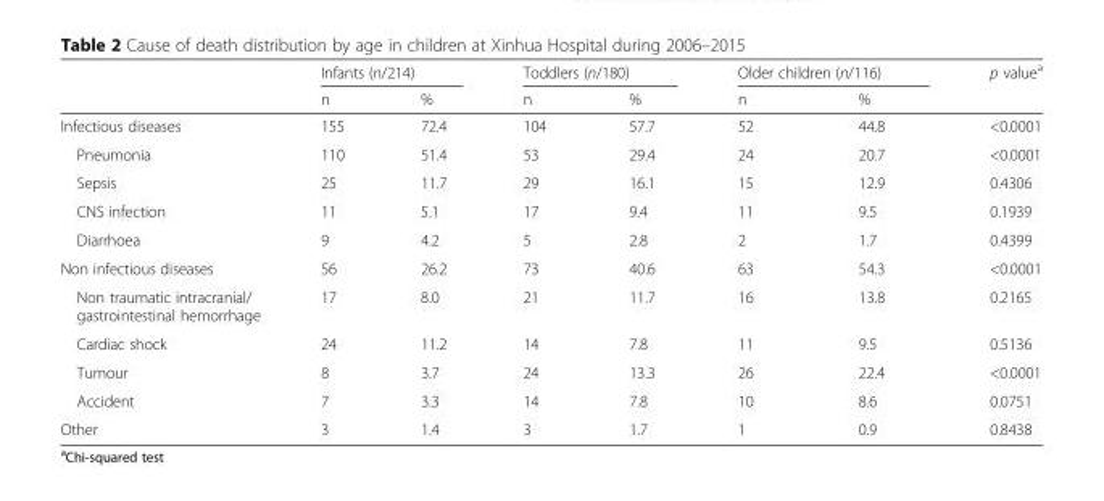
<table><thead><tr><td rowspan="2"></td><td colspan="2">Infants (n/214)</td><td colspan="2">Toddlers (n/180)</td><td colspan="2">Older children (n/116)</td><td rowspan="2">p value<sup>a</sup></td></tr><tr><td>n</td><td>%</td><td>n</td><td>%</td><td>n</td><td>%</td></tr></thead><tbody><tr><td>Infectious diseases</td><td>155</td><td>72.4</td><td>104</td><td>57.7</td><td>52</td><td>44.8</td><td>&lt;0.0001</td></tr><tr><td>Pneumonia</td><td>110</td><td>51.4</td><td>53</td><td>29.4</td><td>24</td><td>20.7</td><td>&lt;0.0001</td></tr><tr><td>Sepsis</td><td>25</td><td>11.7</td><td>29</td><td>16.1</td><td>15</td><td>12.9</td><td>0.4306</td></tr><tr><td>CNS infection</td><td>11</td><td>5.1</td><td>17</td><td>9.4</td><td>11</td><td>9.5</td><td>0.1939</td></tr><tr><td>Diarrhoea</td><td>9</td><td>4.2</td><td>5</td><td>2.8</td><td>2</td><td>1.7</td><td>0.4399</td></tr><tr><td>Non infectious diseases</td><td>56</td><td>26.2</td><td>73</td><td>40.6</td><td>63</td><td>54.3</td><td>&lt;0.0001</td></tr><tr><td>Non traumatic intracranial/ gastrointestinal hemorrhage</td><td>17</td><td>8.0</td><td>21</td><td>11.7</td><td>16</td><td>13.8</td><td>0.2165</td></tr><tr><td>Cardiac shock</td><td>24</td><td>11.2</td><td>14</td><td>7.8</td><td>11</td><td>9.5</td><td>0.5136</td></tr><tr><td>Tumour</td><td>8</td><td>3.7</td><td>24</td><td>13.3</td><td>26</td><td>22.4</td><td>&lt;0.0001</td></tr><tr><td>Accident</td><td>7</td><td>3.3</td><td>14</td><td>7.8</td><td>10</td><td>8.6</td><td>0.0751</td></tr><tr><td>Other</td><td>3</td><td>1.4</td><td>3</td><td>1.7</td><td>1</td><td>0.9</td><td>0.8438</td></tr></tbody></table>